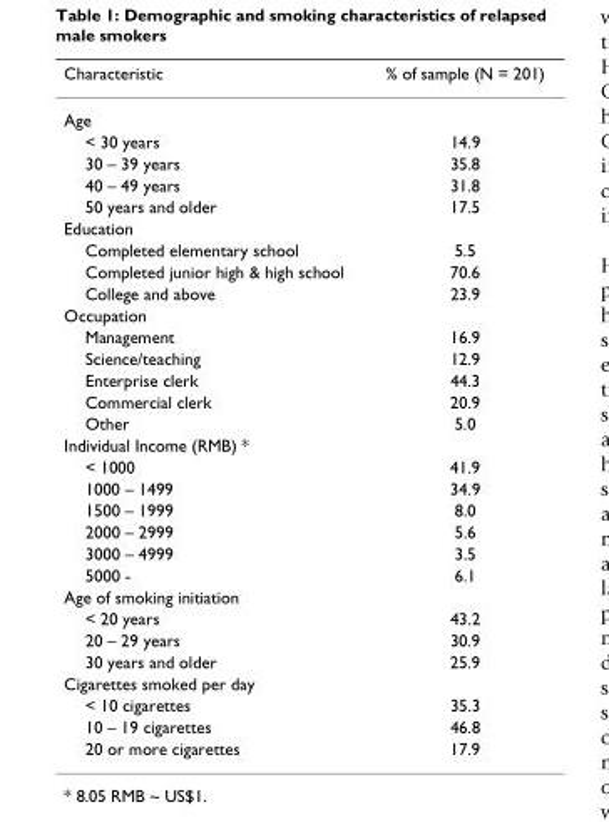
<table><thead><tr><td>Characteristic</td><td>% of sample (N = 201)</td></tr></thead><tbody><tr><td colspan="2">Age</td></tr><tr><td>&lt; 30 years</td><td>14.9</td></tr><tr><td>30 – 39 years</td><td>35.8</td></tr><tr><td>40 – 49 years</td><td>31.8</td></tr><tr><td>50 years and older</td><td>17.5</td></tr><tr><td colspan="2">Education</td></tr><tr><td>Completed elementary school</td><td>5.5</td></tr><tr><td>Completed junior high &amp; high school</td><td>70.6</td></tr><tr><td>College and above</td><td>23.9</td></tr><tr><td colspan="2">Occupation</td></tr><tr><td>Management</td><td>16.9</td></tr><tr><td>Science/teaching</td><td>12.9</td></tr><tr><td>Enterprise clerk</td><td>44.3</td></tr><tr><td>Commercial clerk</td><td>20.9</td></tr><tr><td>Other</td><td>5.0</td></tr><tr><td colspan="2">Individual Income (RMB) *</td></tr><tr><td>&lt; 1000</td><td>41.9</td></tr><tr><td>1000 – 1499</td><td>34.9</td></tr><tr><td>1500 – 1999</td><td>8.0</td></tr><tr><td>2000 – 2999</td><td>5.6</td></tr><tr><td>3000 – 4999</td><td>3.5</td></tr><tr><td>5000 -</td><td>6.1</td></tr><tr><td colspan="2">Age of smoking initiation</td></tr><tr><td>&lt; 20 years</td><td>43.2</td></tr><tr><td>20 – 29 years</td><td>30.9</td></tr><tr><td>30 years and older</td><td>25.9</td></tr><tr><td colspan="2">Cigarettes smoked per day</td></tr><tr><td>&lt; 10 cigarettes</td><td>35.3</td></tr><tr><td>10 – 19 cigarettes</td><td>46.8</td></tr><tr><td>20 or more cigarettes</td><td>17.9</td></tr></tbody></table>